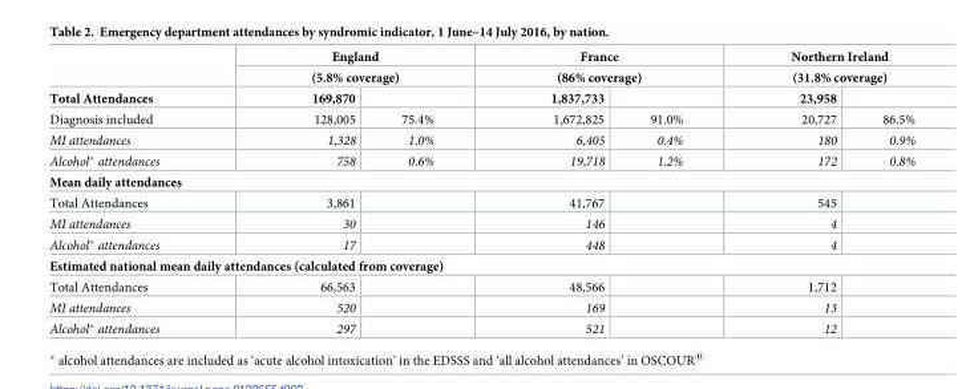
<table><thead><tr><td rowspan="3">Total Attendances</td><td rowspan="2" colspan="2">England (5.8% coverage)</td><td rowspan="2" colspan="2">France (86% coverage)</td><td rowspan="2" colspan="2">Northern Ireland (31.8% coverage)</td></tr><tr></tr><tr><td>169,870</td><td></td><td>1,837,733</td><td></td><td>23,958</td><td></td></tr></thead><tbody><tr><td>Diagnosis included</td><td>128,005</td><td>75.4%</td><td>1,672,825</td><td>91.0%</td><td>20,727</td><td>86.5%</td></tr><tr><td>MI attendances</td><td>1,328</td><td>1.0%</td><td>6,405</td><td>0.4%</td><td>180</td><td>0.9%</td></tr><tr><td>Alcohol* attendances</td><td>758</td><td>0.6%</td><td>19,718</td><td>1.2%</td><td>172</td><td>0.8%</td></tr><tr><td colspan="7">Mean daily attendances</td></tr><tr><td>Total Attendances</td><td>3,861</td><td></td><td>41,767</td><td></td><td>545</td><td></td></tr><tr><td>MI attendances</td><td>30</td><td></td><td>146</td><td></td><td>4</td><td></td></tr><tr><td>Alcohol* attendances</td><td>17</td><td></td><td>448</td><td></td><td>4</td><td></td></tr><tr><td colspan="7">Estimated national mean daily attendances (calculated from coverage)</td></tr><tr><td>Total Attendances</td><td>66,563</td><td></td><td>48,566</td><td></td><td>1,712</td><td></td></tr><tr><td>MI attendances</td><td>520</td><td></td><td>169</td><td></td><td>13</td><td></td></tr><tr><td>Alcohol* attendances</td><td>297</td><td></td><td>521</td><td></td><td>12</td><td></td></tr></tbody></table>